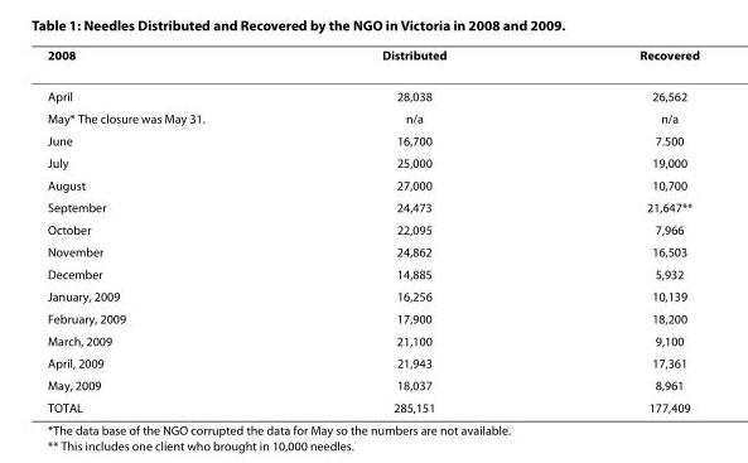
<table><thead><tr><td>2008</td><td>Distributed</td><td>Recovered</td></tr></thead><tbody><tr><td>April</td><td>28,038</td><td>26,562</td></tr><tr><td>May* The closure was May 31.</td><td>n/a</td><td>n/a</td></tr><tr><td>June</td><td>16,700</td><td>7.500</td></tr><tr><td>July</td><td>25,000</td><td>19,000</td></tr><tr><td>August</td><td>27,000</td><td>10,700</td></tr><tr><td>September</td><td>24,473</td><td>21,647**</td></tr><tr><td>October</td><td>22,095</td><td>7,966</td></tr><tr><td>November</td><td>24,862</td><td>16,503</td></tr><tr><td>December</td><td>14,885</td><td>5,932</td></tr><tr><td>January, 2009</td><td>16,256</td><td>10,139</td></tr><tr><td>February, 2009</td><td>17,900</td><td>18,200</td></tr><tr><td>March, 2009</td><td>21,100</td><td>9,100</td></tr><tr><td>April, 2009</td><td>21,943</td><td>17,361</td></tr><tr><td>May, 2009</td><td>18,037</td><td>8,961</td></tr><tr><td>TOTAL</td><td>285,151</td><td>177,409</td></tr></tbody></table>